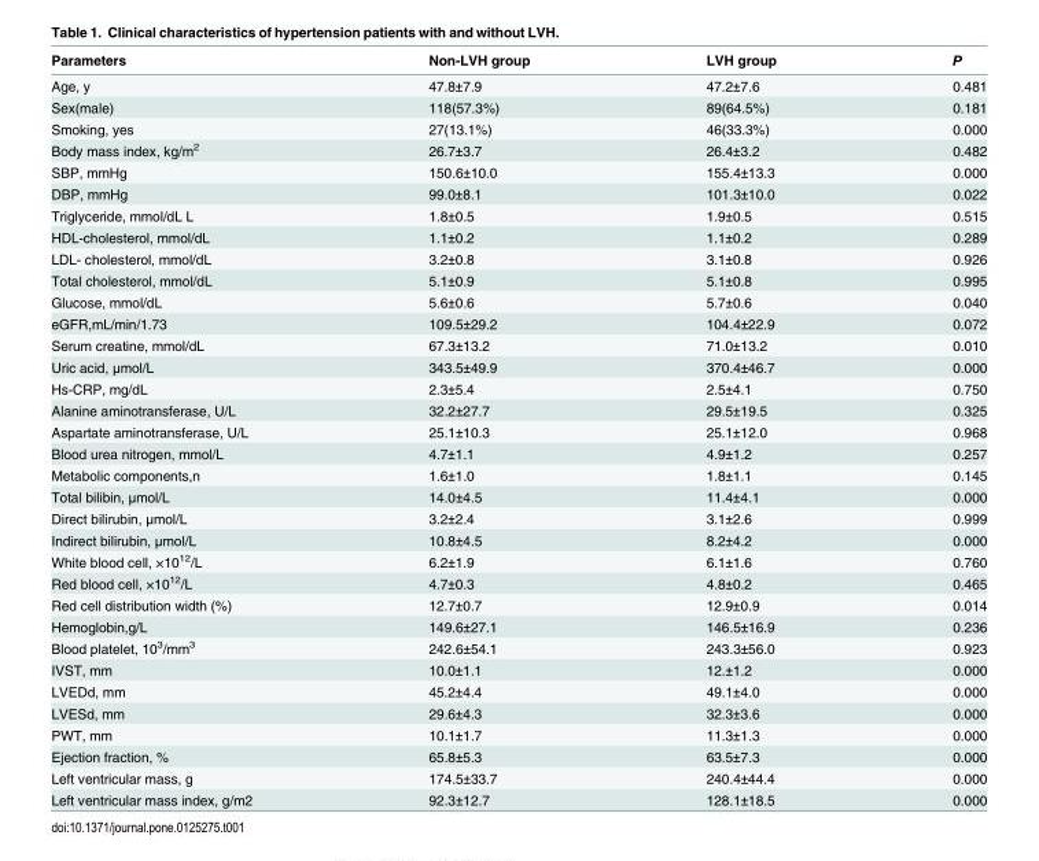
<table><thead><tr><td>Parameters</td><td>Non-LVH group</td><td>LVH group</td><td>P</td></tr></thead><tbody><tr><td>Age, y</td><td>47.8±7.9</td><td>47.2±7.6</td><td>0.481</td></tr><tr><td>Sex(male)</td><td>118(57.3%)</td><td>89(64.5%)</td><td>0.181</td></tr><tr><td>Smoking, yes</td><td>27(13.1%)</td><td>46(33.3%)</td><td>0.000</td></tr><tr><td>Body mass index, kg/m<sup>2</sup></td><td>26.7±3.7</td><td>26.4±3.2</td><td>0.482</td></tr><tr><td>SBP, mmHg</td><td>150.6±10.0</td><td>155.4±13.3</td><td>0.000</td></tr><tr><td>DBP, mmHg</td><td>99.0±8.1</td><td>101.3±10.0</td><td>0.022</td></tr><tr><td>Triglyceride, mmol/dL L</td><td>1.8±0.5</td><td>1.9±0.5</td><td>0.515</td></tr><tr><td>HDL-cholesterol, mmol/dL</td><td>1.1±0.2</td><td>1.1±0.2</td><td>0.289</td></tr><tr><td>LDL- cholesterol, mmol/dL</td><td>3.2±0.8</td><td>3.1±0.8</td><td>0.926</td></tr><tr><td>Total cholesterol, mmol/dL</td><td>5.1±0.9</td><td>5.1±0.8</td><td>0.995</td></tr><tr><td>Glucose, mmol/dL</td><td>5.6±0.6</td><td>5.7±0.6</td><td>0.040</td></tr><tr><td>eGFR,mL/min/1.73</td><td>109.5±29.2</td><td>104.4±22.9</td><td>0.072</td></tr><tr><td>Serum creatine, mmol/dL</td><td>67.3±13.2</td><td>71.0±13.2</td><td>0.010</td></tr><tr><td>Uric acid, μmol/L</td><td>343.5±49.9</td><td>370.4±46.7</td><td>0.000</td></tr><tr><td>Hs-CRP, mg/dL</td><td>2.3±5.4</td><td>2.5±4.1</td><td>0.750</td></tr><tr><td>Alanine aminotransferase, U/L</td><td>32.2±27.7</td><td>29.5±19.5</td><td>0.325</td></tr><tr><td>Aspartate aminotransferase, U/L</td><td>25.1±10.3</td><td>25.1±12.0</td><td>0.968</td></tr><tr><td>Blood urea nitrogen, mmol/L</td><td>4.7±1.1</td><td>4.9±1.2</td><td>0.257</td></tr><tr><td>Metabolic components,n</td><td>1.6±1.0</td><td>1.8±1.1</td><td>0.145</td></tr><tr><td>Total bilibin, μmol/L</td><td>14.0±4.5</td><td>11.4±4.1</td><td>0.000</td></tr><tr><td>Direct bilirubin, μmol/L</td><td>3.2±2.4</td><td>3.1±2.6</td><td>0.999</td></tr><tr><td>Indirect bilirubin, μmol/L</td><td>10.8±4.5</td><td>8.2±4.2</td><td>0.000</td></tr><tr><td>White blood cell, ×10<sup>12</sup>/L</td><td>6.2±1.9</td><td>6.1±1.6</td><td>0.760</td></tr><tr><td>Red blood cell, ×10<sup>12</sup>/L</td><td>4.7±0.3</td><td>4.8±0.2</td><td>0.465</td></tr><tr><td>Red cell distribution width (%)</td><td>12.7±0.7</td><td>12.9±0.9</td><td>0.014</td></tr><tr><td>Hemoglobin,g/L</td><td>149.6±27.1</td><td>146.5±16.9</td><td>0.236</td></tr><tr><td>Blood platelet, 10<sup>3</sup>/mm<sup>3</sup></td><td>242.6±54.1</td><td>243.3±56.0</td><td>0.923</td></tr><tr><td>IVST, mm</td><td>10.0±1.1</td><td>12.±1.2</td><td>0.000</td></tr><tr><td>LVEDd, mm</td><td>45.2±4.4</td><td>49.1±4.0</td><td>0.000</td></tr><tr><td>LVESd, mm</td><td>29.6±4.3</td><td>32.3±3.6</td><td>0.000</td></tr><tr><td>PWT, mm</td><td>10.1±1.7</td><td>11.3±1.3</td><td>0.000</td></tr><tr><td>Ejection fraction, %</td><td>65.8±5.3</td><td>63.5±7.3</td><td>0.000</td></tr><tr><td>Left ventricular mass, g</td><td>174.5±33.7</td><td>240.4±44.4</td><td>0.000</td></tr><tr><td>Left ventricular mass index, g/m2</td><td>92.3±12.7</td><td>128.1±18.5</td><td>0.000</td></tr></tbody></table>